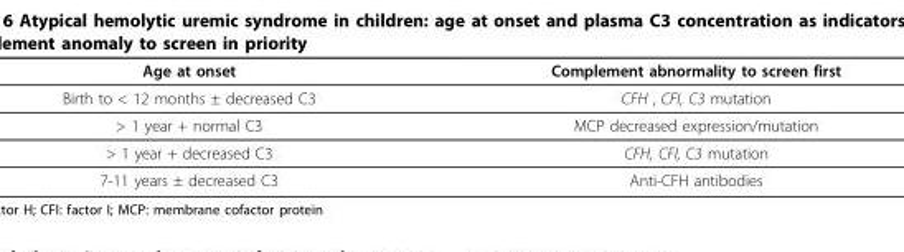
<table><thead><tr><td>Age at onset</td><td>Complement abnormality to screen first</td></tr></thead><tbody><tr><td>Birth to &lt; 12 months ± decreased C3</td><td>CFH , CFI, C3 mutation</td></tr><tr><td>&gt; 1 year + normal C3</td><td>MCP decreased expression/mutation</td></tr><tr><td>&gt; 1 year + decreased C3</td><td>CFH, CFI, C3 mutation</td></tr><tr><td>7-11 years ± decreased C3</td><td>Anti-CFH antibodies</td></tr></tbody></table>